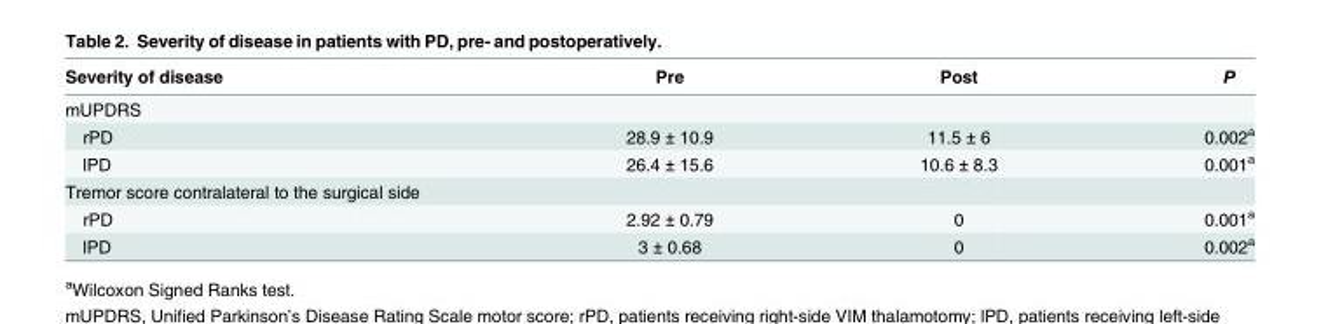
<table><thead><tr><td>Severity of disease</td><td>Pre</td><td>Post</td><td>P</td></tr></thead><tbody><tr><td colspan="4">mUPDRS</td></tr><tr><td>rPD</td><td>28.9 ± 10.9</td><td>11.5 ± 6</td><td>0.002<sup>a</sup></td></tr><tr><td>lPD</td><td>26.4 ± 15.6</td><td>10.6 ± 8.3</td><td>0.001<sup>a</sup></td></tr><tr><td colspan="4">Tremor score contralateral to the surgical side</td></tr><tr><td>rPD</td><td>2.92 ± 0.79</td><td>0</td><td>0.001<sup>a</sup></td></tr><tr><td>lPD</td><td>3 ± 0.68</td><td>0</td><td>0.002<sup>a</sup></td></tr></tbody></table>